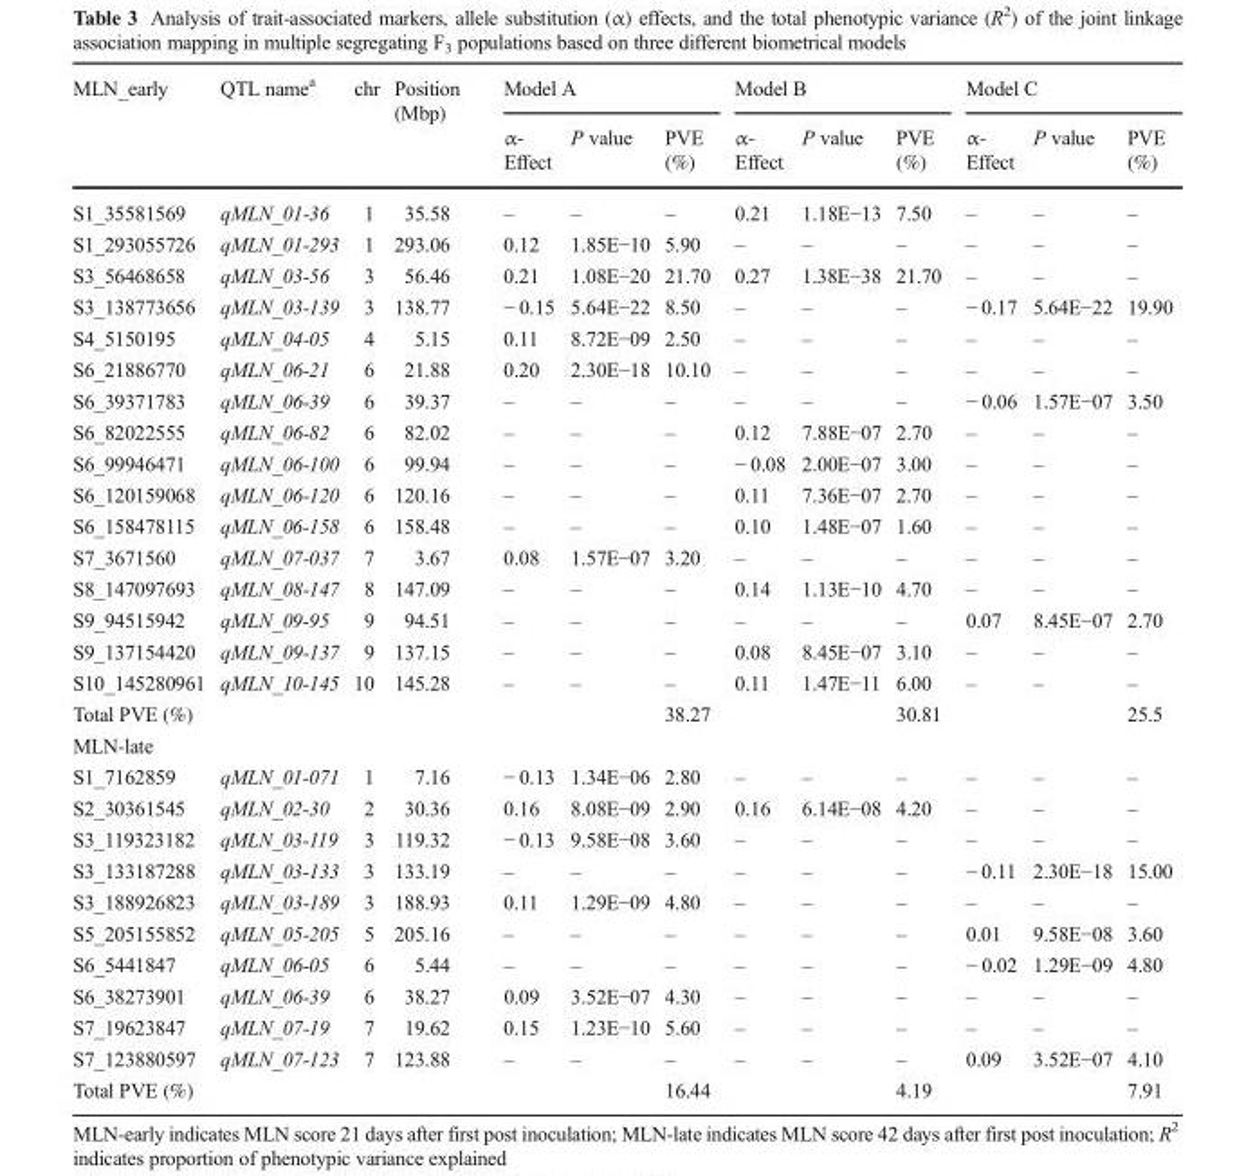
<table><thead><tr><td rowspan="2">MLN_early</td><td rowspan="2">QTL name<sup>a</sup></td><td rowspan="2">chr</td><td rowspan="2">Position (Mbp)</td><td colspan="3">Model A</td><td colspan="3">Model B</td><td colspan="3">Model C</td></tr><tr><td>α- Effect</td><td>P value</td><td>PVE (%)</td><td>α- Effect</td><td>P value</td><td>PVE (%)</td><td>α- Effect</td><td>P value</td><td>PVE (%)</td></tr></thead><tbody><tr><td>S1_35581569</td><td>qMLN_01-36</td><td>1</td><td>35.58</td><td>–</td><td>–</td><td>–</td><td>0.21</td><td>1.18E−13</td><td>7.50</td><td>–</td><td>–</td><td>–</td></tr><tr><td>S1_293055726</td><td>qMLN_01-293</td><td>1</td><td>293.06</td><td>0.12</td><td>1.85E−10</td><td>5.90</td><td>–</td><td>–</td><td>–</td><td>–</td><td>–</td><td>–</td></tr><tr><td>S3_56468658</td><td>qMLN_03-56</td><td>3</td><td>56.46</td><td>0.21</td><td>1.08E−20</td><td>21.70</td><td>0.27</td><td>1.38E−38</td><td>21.70</td><td>–</td><td>–</td><td>–</td></tr><tr><td>S3_138773656</td><td>qMLN_03-139</td><td>3</td><td>138.77</td><td>− 0.15</td><td>5.64E−22</td><td>8.50</td><td>–</td><td>–</td><td>–</td><td>− 0.17</td><td>5.64E−22</td><td>19.90</td></tr><tr><td>S4_5150195</td><td>qMLN_04-05</td><td>4</td><td>5.15</td><td>0.11</td><td>8.72E−09</td><td>2.50</td><td>–</td><td>–</td><td>–</td><td>–</td><td>–</td><td>–</td></tr><tr><td>S6_21886770</td><td>qMLN_06-21</td><td>6</td><td>21.88</td><td>0.20</td><td>2.30E−18</td><td>10.10</td><td>–</td><td>–</td><td>–</td><td>–</td><td>–</td><td>–</td></tr><tr><td>S6_39371783</td><td>qMLN_06-39</td><td>6</td><td>39.37</td><td>–</td><td>–</td><td>–</td><td>–</td><td>–</td><td>–</td><td>− 0.06</td><td>1.57E−07</td><td>3.50</td></tr><tr><td>S6_82022555</td><td>qMLN_06-82</td><td>6</td><td>82.02</td><td>–</td><td>–</td><td>–</td><td>0.12</td><td>7.88E−07</td><td>2.70</td><td>–</td><td>–</td><td>–</td></tr><tr><td>S6_99946471</td><td>qMLN_06-100</td><td>6</td><td>99.94</td><td>–</td><td>–</td><td>–</td><td>− 0.08</td><td>2.00E−07</td><td>3.00</td><td>–</td><td>–</td><td>–</td></tr><tr><td>S6_120159068</td><td>qMLN_06-120</td><td>6</td><td>120.16</td><td>–</td><td>–</td><td>–</td><td>0.11</td><td>7.36E−07</td><td>2.70</td><td>–</td><td>–</td><td>–</td></tr><tr><td>S6_158478115</td><td>qMLN_06-158</td><td>6</td><td>158.48</td><td>–</td><td>–</td><td>–</td><td>0.10</td><td>1.48E−07</td><td>1.60</td><td>–</td><td>–</td><td>–</td></tr><tr><td>S7_3671560</td><td>qMLN_07-037</td><td>7</td><td>3.67</td><td>0.08</td><td>1.57E−07</td><td>3.20</td><td>–</td><td>–</td><td>–</td><td>–</td><td>–</td><td>–</td></tr><tr><td>S8_147097693</td><td>qMLN_08-147</td><td>8</td><td>147.09</td><td>–</td><td>–</td><td>–</td><td>0.14</td><td>1.13E−10</td><td>4.70</td><td>–</td><td>–</td><td>–</td></tr><tr><td>S9_94515942</td><td>qMLN_09-95</td><td>9</td><td>94.51</td><td>–</td><td>–</td><td>–</td><td>–</td><td>–</td><td>–</td><td>0.07</td><td>8.45E−07</td><td>2.70</td></tr><tr><td>S9_137154420</td><td>qMLN_09-137</td><td>9</td><td>137.15</td><td>–</td><td>–</td><td>–</td><td>0.08</td><td>8.45E−07</td><td>3.10</td><td>–</td><td>–</td><td>–</td></tr><tr><td>S10_145280961</td><td>qMLN_10-145</td><td>10</td><td>145.28</td><td>–</td><td>–</td><td>–</td><td>0.11</td><td>1.47E−11</td><td>6.00</td><td>–</td><td>–</td><td>–</td></tr><tr><td>Total PVE (%)</td><td></td><td></td><td></td><td></td><td></td><td>38.27</td><td></td><td></td><td>30.81</td><td></td><td></td><td>25.5</td></tr><tr><td colspan="13">MLN-late</td></tr><tr><td>S1_7162859</td><td>qMLN_01-071</td><td>1</td><td>7.16</td><td>− 0.13</td><td>1.34E−06</td><td>2.80</td><td>–</td><td>–</td><td>–</td><td>–</td><td>–</td><td>–</td></tr><tr><td>S2_30361545</td><td>qMLN_02-30</td><td>2</td><td>30.36</td><td>0.16</td><td>8.08E−09</td><td>2.90</td><td>0.16</td><td>6.14E−08</td><td>4.20</td><td>–</td><td>–</td><td>–</td></tr><tr><td>S3_119323182</td><td>qMLN_03-119</td><td>3</td><td>119.32</td><td>− 0.13</td><td>9.58E−08</td><td>3.60</td><td>–</td><td>–</td><td>–</td><td>–</td><td>–</td><td>–</td></tr><tr><td>S3_133187288</td><td>qMLN_03-133</td><td>3</td><td>133.19</td><td>–</td><td>–</td><td>–</td><td>–</td><td>–</td><td>–</td><td>− 0.11</td><td>2.30E−18</td><td>15.00</td></tr><tr><td>S3_188926823</td><td>qMLN_03-189</td><td>3</td><td>188.93</td><td>0.11</td><td>1.29E−09</td><td>4.80</td><td>–</td><td>–</td><td>–</td><td>–</td><td>–</td><td>–</td></tr><tr><td>S5_205155852</td><td>qMLN_05-205</td><td>5</td><td>205.16</td><td>–</td><td>–</td><td>–</td><td>–</td><td>–</td><td>–</td><td>0.01</td><td>9.58E−08</td><td>3.60</td></tr><tr><td>S6_5441847</td><td>qMLN_06-05</td><td>6</td><td>5.44</td><td>–</td><td>–</td><td>–</td><td>–</td><td>–</td><td>–</td><td>− 0.02</td><td>1.29E−09</td><td>4.80</td></tr><tr><td>S6_38273901</td><td>qMLN_06-39</td><td>6</td><td>38.27</td><td>0.09</td><td>3.52E−07</td><td>4.30</td><td>–</td><td>–</td><td>–</td><td>–</td><td>–</td><td>–</td></tr><tr><td>S7_19623847</td><td>qMLN_07-19</td><td>7</td><td>19.62</td><td>0.15</td><td>1.23E−10</td><td>5.60</td><td>–</td><td>–</td><td>–</td><td>–</td><td>–</td><td>–</td></tr><tr><td>S7_123880597</td><td>qMLN_07-123</td><td>7</td><td>123.88</td><td>–</td><td>–</td><td>–</td><td>–</td><td>–</td><td>–</td><td>0.09</td><td>3.52E−07</td><td>4.10</td></tr><tr><td>Total PVE (%)</td><td></td><td></td><td></td><td></td><td></td><td>16.44</td><td></td><td></td><td>4.19</td><td></td><td></td><td>7.91</td></tr></tbody></table>